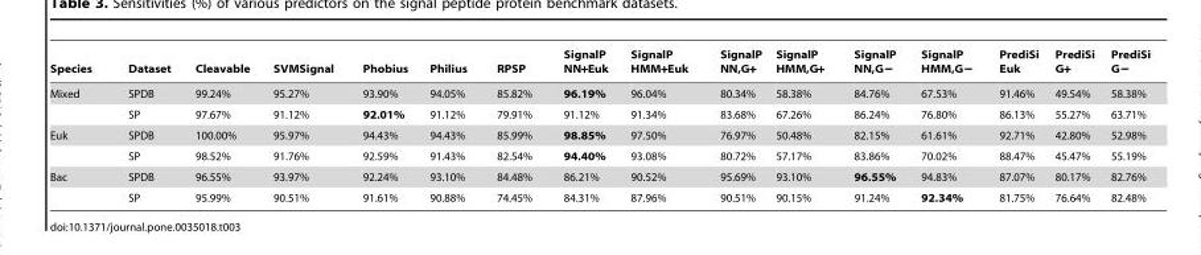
<table><thead><tr><td>Species</td><td>Dataset</td><td>Cleavable</td><td>SVMSignal</td><td>Phobius</td><td>Philius</td><td>RPSP</td><td>SignalP NN+Euk</td><td>SignalP HMM+Euk</td><td>SignalP NN,G+</td><td>SignalP HMM,G+</td><td>SignalP NN,G−</td><td>SignalP HMM,G−</td><td>PrediSi Euk</td><td>PrediSi G+</td><td>PrediSi G−</td></tr></thead><tbody><tr><td rowspan="2">Mixed</td><td>SPDB</td><td>99.24%</td><td>95.27%</td><td>93.90%</td><td>94.05%</td><td>85.82%</td><td>96.19%</td><td>96.04%</td><td>80.34%</td><td>58.38%</td><td>84.76%</td><td>67.53%</td><td>91.46%</td><td>49.54%</td><td>58.38%</td></tr><tr><td>SP</td><td>97.67%</td><td>91.12%</td><td>92.01%</td><td>91.12%</td><td>79.91%</td><td>91.12%</td><td>91.34%</td><td>83.68%</td><td>67.26%</td><td>86.24%</td><td>76.80%</td><td>86.13%</td><td>55.27%</td><td>63.71%</td></tr><tr><td rowspan="2">Euk</td><td>SPDB</td><td>100.00%</td><td>95.97%</td><td>94.43%</td><td>94.43%</td><td>85.99%</td><td>98.85%</td><td>97.50%</td><td>76.97%</td><td>50.48%</td><td>82.15%</td><td>61.61%</td><td>92.71%</td><td>42.80%</td><td>52.98%</td></tr><tr><td>SP</td><td>98.52%</td><td>91.76%</td><td>92.59%</td><td>91.43%</td><td>82.54%</td><td>94.40%</td><td>93.08%</td><td>80.72%</td><td>57.17%</td><td>83.86%</td><td>70.02%</td><td>88.47%</td><td>45.47%</td><td>55.19%</td></tr><tr><td rowspan="2">Bac</td><td>SPDB</td><td>96.55%</td><td>93.97%</td><td>92.24%</td><td>93.10%</td><td>84.48%</td><td>86.21%</td><td>90.52%</td><td>95.69%</td><td>93.10%</td><td>96.55%</td><td>94.83%</td><td>87.07%</td><td>80.17%</td><td>82.76%</td></tr><tr><td>SP</td><td>95.99%</td><td>90.51%</td><td>91.61%</td><td>90.88%</td><td>74.45%</td><td>84.31%</td><td>87.96%</td><td>90.51%</td><td>90.15%</td><td>91.24%</td><td>92.34%</td><td>81.75%</td><td>76.64%</td><td>82.48%</td></tr></tbody></table>